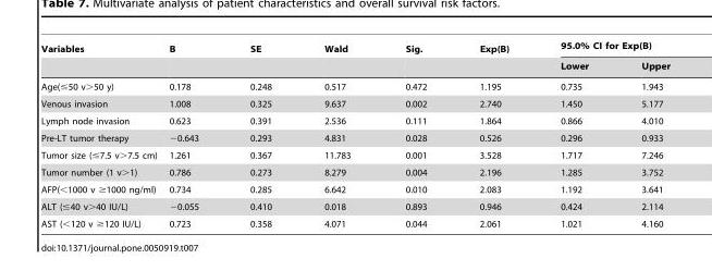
<table><thead><tr><td rowspan="2">Variables</td><td rowspan="2">B</td><td rowspan="2">SE</td><td rowspan="2">Wald</td><td rowspan="2">Sig.</td><td rowspan="2">Exp(B)</td><td colspan="2">95.0% CI for Exp(B)</td></tr><tr><td>Lower</td><td>Upper</td></tr></thead><tbody><tr><td>Age(≤50 v&gt;50 y)</td><td>0.178</td><td>0.248</td><td>0.517</td><td>0.472</td><td>1.195</td><td>0.735</td><td>1.943</td></tr><tr><td>Venous invasion</td><td>1.008</td><td>0.325</td><td>9.637</td><td>0.002</td><td>2.740</td><td>1.450</td><td>5.177</td></tr><tr><td>Lymph node invasion</td><td>0.623</td><td>0.391</td><td>2.536</td><td>0.111</td><td>1.864</td><td>0.866</td><td>4.010</td></tr><tr><td>Pre-LT tumor therapy</td><td>−0.643</td><td>0.293</td><td>4.831</td><td>0.028</td><td>0.526</td><td>0.296</td><td>0.933</td></tr><tr><td>Tumor size (≤7.5 v&gt;7.5 cm)</td><td>1.261</td><td>0.367</td><td>11.783</td><td>0.001</td><td>3.528</td><td>1.717</td><td>7.246</td></tr><tr><td>Tumor number (1 v&gt;1)</td><td>0.786</td><td>0.273</td><td>8.279</td><td>0.004</td><td>2.196</td><td>1.285</td><td>3.752</td></tr><tr><td>AFP(&lt;1000 v ≥1000 ng/ml)</td><td>0.734</td><td>0.285</td><td>6.642</td><td>0.010</td><td>2.083</td><td>1.192</td><td>3.641</td></tr><tr><td>ALT (≤40 v&gt;40 IU/L)</td><td>−0.055</td><td>0.410</td><td>0.018</td><td>0.893</td><td>0.946</td><td>0.424</td><td>2.114</td></tr><tr><td>AST (&lt;120 v ≥120 IU/L)</td><td>0.723</td><td>0.358</td><td>4.071</td><td>0.044</td><td>2.061</td><td>1.021</td><td>4.160</td></tr></tbody></table>